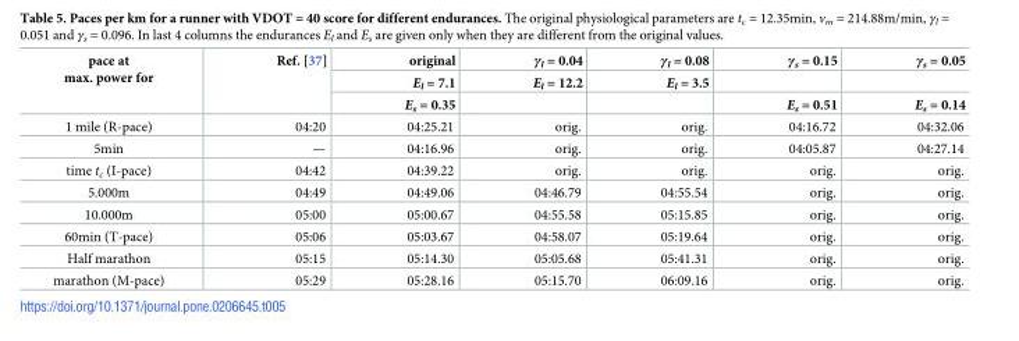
<table><thead><tr><td rowspan="3">pace at max. power for</td><td rowspan="3">Ref. [37]</td><td rowspan="3">original E<sub>l</sub> = 7.1 E<sub>s</sub> = 0.35</td><td rowspan="3">γ<sub>l</sub> = 0.04 E<sub>l</sub> = 12.2</td><td rowspan="3">γ<sub>l</sub> = 0.08 E<sub>l</sub> = 3.5</td><td rowspan="3">γ<sub>s</sub> = 0.15 E<sub>s</sub> = 0.51</td><td rowspan="3">γ<sub>s</sub> = 0.05 E<sub>s</sub> = 0.14</td></tr><tr></tr><tr></tr></thead><tbody><tr><td>1 mile (R-pace)</td><td>04:20</td><td>04:25.21</td><td>orig.</td><td>orig.</td><td>04:16.72</td><td>04:32.06</td></tr><tr><td>5min</td><td>—</td><td>04:16.96</td><td>orig.</td><td>orig.</td><td>04:05.87</td><td>04:27.14</td></tr><tr><td>time t<sub>c</sub> (I-pace)</td><td>04:42</td><td>04:39.22</td><td>orig.</td><td>orig.</td><td>orig.</td><td>orig.</td></tr><tr><td>5.000m</td><td>04:49</td><td>04:49.06</td><td>04:46.79</td><td>04:55.54</td><td>orig.</td><td>orig.</td></tr><tr><td>10.000m</td><td>05:00</td><td>05:00.67</td><td>04:55.58</td><td>05:15.85</td><td>orig.</td><td>orig.</td></tr><tr><td>60min (T-pace)</td><td>05:06</td><td>05:03.67</td><td>04:58.07</td><td>05:19.64</td><td>orig.</td><td>orig.</td></tr><tr><td>Half marathon</td><td>05:15</td><td>05:14.30</td><td>05:05.68</td><td>05:41.31</td><td>orig.</td><td>orig.</td></tr><tr><td>marathon (M-pace)</td><td>05:29</td><td>05:28.16</td><td>05:15.70</td><td>06:09.16</td><td>orig.</td><td>orig.</td></tr></tbody></table>